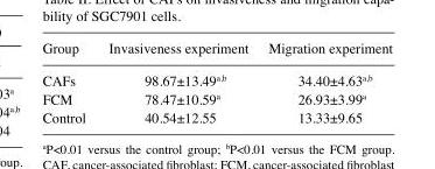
<table><thead><tr><td>Group</td><td>Invasiveness experiment</td><td>Migration experiment</td></tr></thead><tbody><tr><td>CAFs</td><td>98.67±13.49<sup>a,b</sup></td><td>34.40±4.63<sup>a,b</sup></td></tr><tr><td>FCM</td><td>78.47±10.59<sup>a</sup></td><td>26.93±3.99<sup>a</sup></td></tr><tr><td>Control</td><td>40.54±12.55</td><td>13.33±9.65</td></tr></tbody></table>